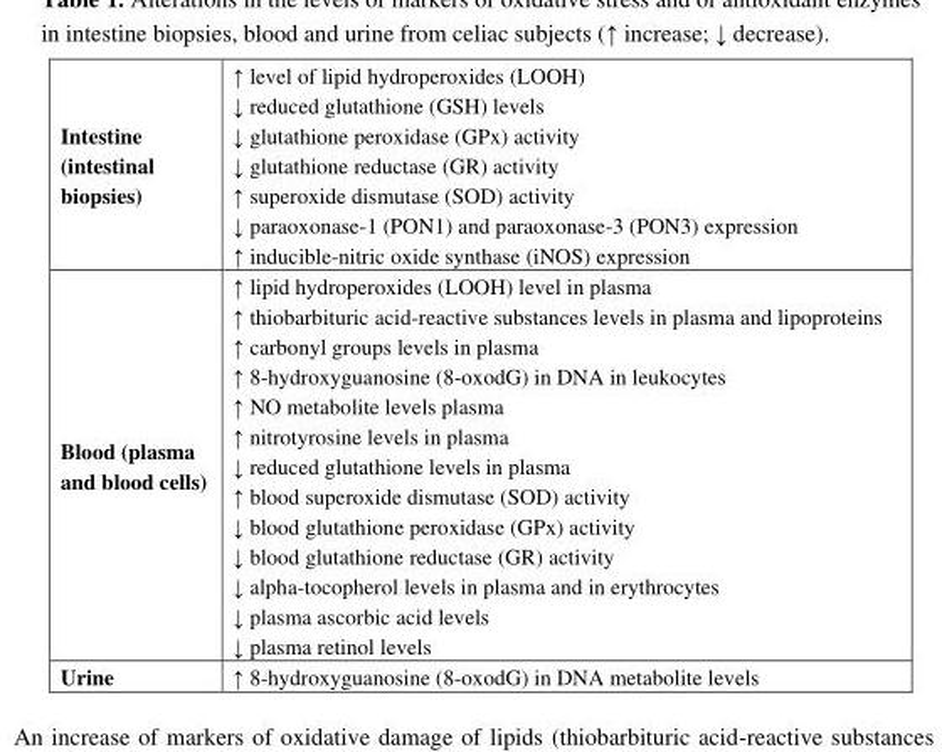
<table><tbody><tr><td rowspan="7">Intestine (intestinal biopsies)</td><td>↑ level of lipid hydroperoxides (LOOH)</td></tr><tr><td>↓ reduced glutathione (GSH) levels</td></tr><tr><td>↓ glutathione peroxidase (GPx) activity</td></tr><tr><td>↓ glutathione reductase (GR) activity</td></tr><tr><td>↑ superoxide dismutase (SOD) activity</td></tr><tr><td>↓ paraoxonase-1 (PON1) and paraoxonase-3 (PON3) expression</td></tr><tr><td>↑ inducible-nitric oxide synthase (iNOS) expression</td></tr><tr><td rowspan="13">Blood (plasma and blood cells)</td><td>↑ lipid hydroperoxides (LOOH) level in plasma</td></tr><tr><td>↑ thiobarbituric acid-reactive substances levels in plasma and lipoproteins</td></tr><tr><td>↑ carbonyl groups levels in plasma</td></tr><tr><td>↑ 8-hydroxyguanosine (8-oxodG) in DNA in leukocytes</td></tr><tr><td>↑ NO metabolite levels plasma</td></tr><tr><td>↑ nitrotyrosine levels in plasma</td></tr><tr><td>↓ reduced glutathione levels in plasma</td></tr><tr><td>↑ blood superoxide dismutase (SOD) activity</td></tr><tr><td>↓ blood glutathione peroxidase (GPx) activity</td></tr><tr><td>↓ blood glutathione reductase (GR) activity</td></tr><tr><td>↓ alpha-tocopherol levels in plasma and in erythrocytes</td></tr><tr><td>↓ plasma ascorbic acid levels</td></tr><tr><td>↓ plasma retinol levels</td></tr><tr><td>Urine</td><td>↑ 8-hydroxyguanosine (8-oxodG) in DNA metabolite levels</td></tr></tbody></table>